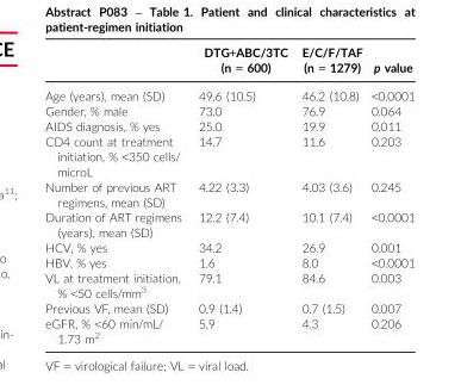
<table><thead><tr><td></td><td>DTG+ABC/3TC (n = 600)</td><td>E/C/F/TAF (n = 1279)</td><td>p value</td></tr></thead><tbody><tr><td>Age (years), mean (SD)</td><td>49.6 (10.5)</td><td>46.2 (10.8)</td><td>&lt;0.0001</td></tr><tr><td>Gender, % male</td><td>73.0</td><td>76.9</td><td>0.064</td></tr><tr><td>AIDS diagnosis, % yes</td><td>25.0</td><td>19.9</td><td>0.011</td></tr><tr><td>CD4 count at treatment initiation, % &lt;350 cells/ microL</td><td>14.7</td><td>11.6</td><td>0.203</td></tr><tr><td>Number of previous ART regimens, mean (SD)</td><td>4.22 (3.3)</td><td>4.03 (3.6)</td><td>0.245</td></tr><tr><td>Duration of ART regimens (years), mean (SD)</td><td>12.2 (7.4)</td><td>10.1 (7.4)</td><td>&lt;0.0001</td></tr><tr><td>HCV, % yes</td><td>34.2</td><td>26.9</td><td>0.001</td></tr><tr><td>HBV, % yes</td><td>1.6</td><td>8.0</td><td>&lt;0.0001</td></tr><tr><td>VL at treatment initiation, % &lt;50 cells/mm<sup>3</sup></td><td>79.1</td><td>84.6</td><td>0.003</td></tr><tr><td>Previous VF, mean (SD)</td><td>0.9 (1.4)</td><td>0.7 (1.5)</td><td>0.007</td></tr><tr><td>eGFR, % &lt;60 min/mL/ 1.73 m<sup>2</sup></td><td>5.9</td><td>4.3</td><td>0.206</td></tr></tbody></table>